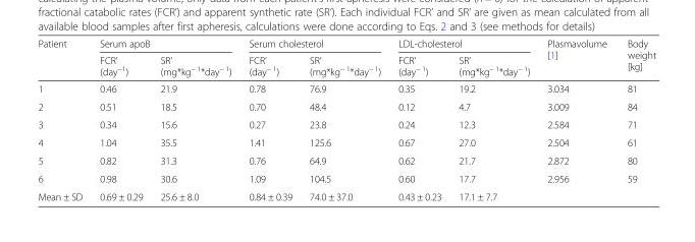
<table><thead><tr><td rowspan="2">Patient</td><td colspan="2">Serum apoB</td><td colspan="2">Serum cholesterol</td><td colspan="2">LDL-cholesterol</td><td rowspan="2">Plasmavolume [1]</td><td rowspan="2">Body weight [kg]</td></tr><tr><td>FCR’ (day<sup>−1</sup>)</td><td>SR’ (mg*kg<sup>− 1</sup>*day<sup>− 1</sup>)</td><td>FCR’ (day<sup>− 1</sup>)</td><td>SR’ (mg*kg<sup>− 1</sup>*day<sup>− 1</sup>)</td><td>FCR’ (day<sup>− 1</sup>)</td><td>SR’ (mg*kg<sup>− 1</sup>*day<sup>− 1</sup>)</td></tr></thead><tbody><tr><td>1</td><td>0.46</td><td>21.9</td><td>0.78</td><td>76.9</td><td>0.35</td><td>19.2</td><td>3.034</td><td>81</td></tr><tr><td>2</td><td>0.51</td><td>18.5</td><td>0.70</td><td>48.4</td><td>0.12</td><td>4.7</td><td>3.009</td><td>84</td></tr><tr><td>3</td><td>0.34</td><td>15.6</td><td>0.27</td><td>23.8</td><td>0.24</td><td>12.3</td><td>2.584</td><td>71</td></tr><tr><td>4</td><td>1.04</td><td>35.5</td><td>1.41</td><td>125.6</td><td>0.67</td><td>27.0</td><td>2.504</td><td>61</td></tr><tr><td>5</td><td>0.82</td><td>31.3</td><td>0.76</td><td>64.9</td><td>0.62</td><td>21.7</td><td>2.872</td><td>80</td></tr><tr><td>6</td><td>0.98</td><td>30.6</td><td>1.09</td><td>104.5</td><td>0.60</td><td>17.7</td><td>2.956</td><td>59</td></tr><tr><td>Mean ± SD</td><td>0.69 ± 0.29</td><td>25.6 ± 8.0</td><td>0.84 ± 0.39</td><td>74.0 ± 37.0</td><td>0.43 ± 0.23</td><td>17.1 ± 7.7</td><td></td><td></td></tr></tbody></table>